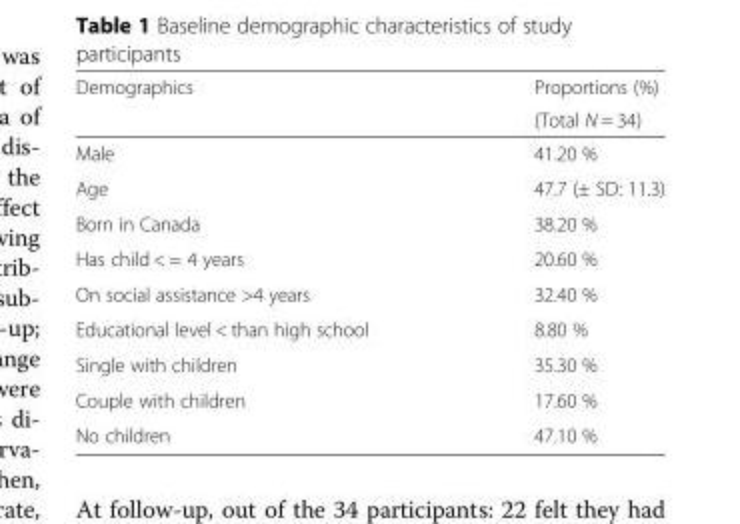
<table><thead><tr><td rowspan="2">Demographics</td><td rowspan="2">Proportions (%) (Total N = 34)</td></tr><tr></tr></thead><tbody><tr><td>Male</td><td>41.20 %</td></tr><tr><td>Age</td><td>47.7 (± SD: 11.3)</td></tr><tr><td>Born in Canada</td><td>38.20 %</td></tr><tr><td>Has child &lt; = 4 years</td><td>20.60 %</td></tr><tr><td>On social assistance &gt;4 years</td><td>32.40 %</td></tr><tr><td>Educational level &lt; than high school</td><td>8.80 %</td></tr><tr><td>Single with children</td><td>35.30 %</td></tr><tr><td>Couple with children</td><td>17.60 %</td></tr><tr><td>No children</td><td>47.10 %</td></tr></tbody></table>